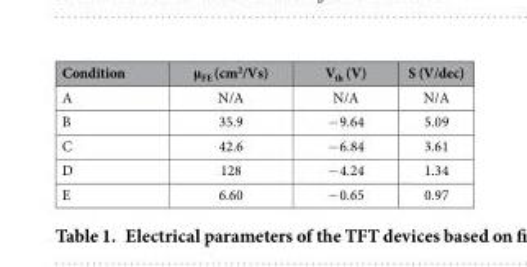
<table><thead><tr><td>Condition</td><td>μ<sub>FE</sub> (cm<sup>2</sup>/Vs)</td><td>V<sub>th</sub> (V)</td><td>S (V/dec)</td></tr></thead><tbody><tr><td>A</td><td>N/A</td><td>N/A</td><td>N/A</td></tr><tr><td>B</td><td>35.9</td><td>− 9.64</td><td>5.09</td></tr><tr><td>C</td><td>42.6</td><td>− 6.84</td><td>3.61</td></tr><tr><td>D</td><td>128</td><td>− 4.24</td><td>1.34</td></tr><tr><td>E</td><td>6.60</td><td>− 0.65</td><td>0.97</td></tr></tbody></table>